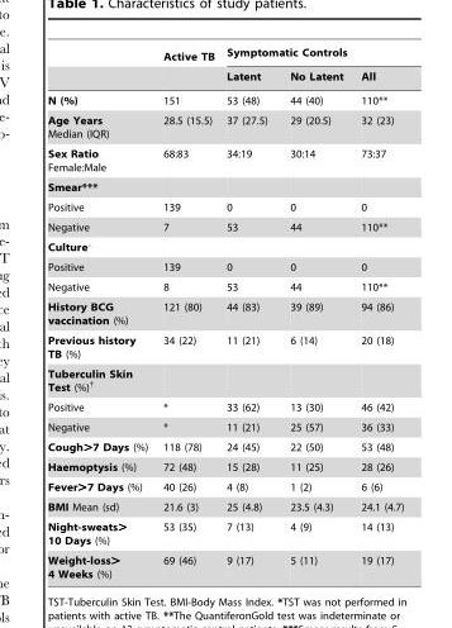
<table><thead><tr><td rowspan="2"></td><td rowspan="2">Active TB</td><td colspan="3">Symptomatic Controls</td></tr><tr><td>Latent</td><td>No Latent</td><td>All</td></tr></thead><tbody><tr><td>N (%)</td><td>151</td><td>53 (48)</td><td>44 (40)</td><td>110**</td></tr><tr><td>Age Years Median (IQR)</td><td>28.5 (15.5)</td><td>37 (27.5)</td><td>29 (20.5)</td><td>32 (23)</td></tr><tr><td>Sex Ratio Female:Male</td><td>68:83</td><td>34:19</td><td>30:14</td><td>73:37</td></tr><tr><td colspan="5">Smear***</td></tr><tr><td>Positive</td><td>139</td><td>0</td><td>0</td><td>0</td></tr><tr><td>Negative</td><td>7</td><td>53</td><td>44</td><td>110**</td></tr><tr><td colspan="5">Culture‘</td></tr><tr><td>Positive</td><td>139</td><td>0</td><td>0</td><td>0</td></tr><tr><td>Negative</td><td>8</td><td>53</td><td>44</td><td>110**</td></tr><tr><td>History BCG vaccination (%)</td><td>121 (80)</td><td>44 (83)</td><td>39 (89)</td><td>94 (86)</td></tr><tr><td>Previous history TB (%)</td><td>34 (22)</td><td>11 (21)</td><td>6 (14)</td><td>20 (18)</td></tr><tr><td colspan="5">Tuberculin Skin Test (%)<sup>†</sup></td></tr><tr><td>Positive</td><td>*</td><td>33 (62)</td><td>13 (30)</td><td>46 (42)</td></tr><tr><td>Negative</td><td>*</td><td>11 (21)</td><td>25 (57)</td><td>36 (33)</td></tr><tr><td>Cough&gt;7 Days (%)</td><td>118 (78)</td><td>24 (45)</td><td>22 (50)</td><td>53 (48)</td></tr><tr><td>Haemoptysis (%)</td><td>72 (48)</td><td>15 (28)</td><td>11 (25)</td><td>28 (26)</td></tr><tr><td>Fever&gt;7 Days (%)</td><td>40 (26)</td><td>4 (8)</td><td>1 (2)</td><td>6 (6)</td></tr><tr><td>BMI Mean (sd)</td><td>21.6 (3)</td><td>25 (4.8)</td><td>23.5 (4.3)</td><td>24.1 (4.7)</td></tr><tr><td>Night-sweats&gt; 10 Days (%)</td><td>53 (35)</td><td>7 (13)</td><td>4 (9)</td><td>14 (13)</td></tr><tr><td>Weight-loss&gt; 4 Weeks (%)</td><td>69 (46)</td><td>9 (17)</td><td>5 (11)</td><td>19 (17)</td></tr></tbody></table>